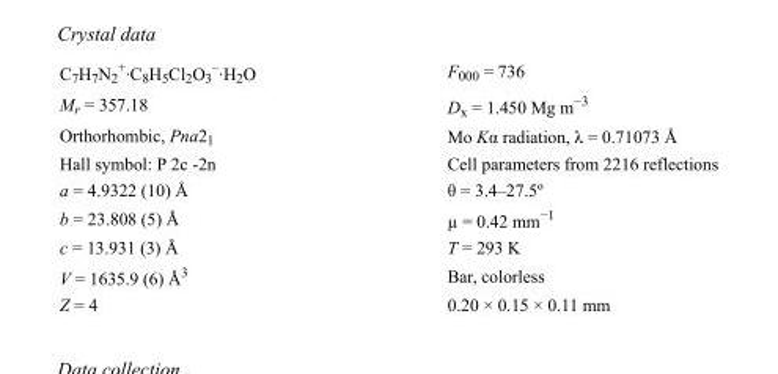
<table><tbody><tr><td>C<sub>7</sub>H<sub>7</sub>N<sub>2</sub> <sup>+</sup>·C<sub>8</sub>H<sub>5</sub>Cl<sub>2</sub>O<sub>3</sub> <sup>–</sup>·H<sub>2</sub>O</td><td>F000 = 736</td></tr><tr><td>M<sub>r</sub> = 357.18</td><td>D<sub>x</sub> = 1.450 Mg m<sup>−3</sup></td></tr><tr><td>Orthorhombic, Pna2<sub>1</sub></td><td>Mo Kα radiation, λ = 0.71073 Å</td></tr><tr><td>Hall symbol: P 2c -2n</td><td>Cell parameters from 2216 reflections</td></tr><tr><td>a = 4.9322 (10) Å</td><td>θ = 3.4–27.5º</td></tr><tr><td>b = 23.808 (5) Å</td><td>µ = 0.42 mm<sup>−1</sup></td></tr><tr><td>c = 13.931 (3) Å</td><td>T = 293 K</td></tr><tr><td>V = 1635.9 (6) Å<sup>3</sup></td><td>Bar, colorless</td></tr><tr><td>Z = 4</td><td>0.20 × 0.15 × 0.11 mm</td></tr></tbody></table>